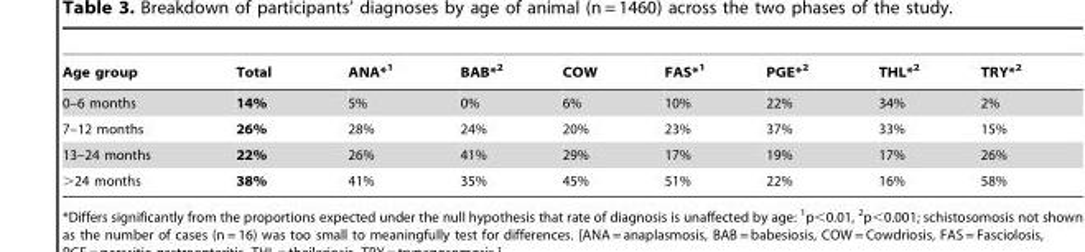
<table><thead><tr><td>Age group</td><td>Total</td><td>ANA*<sup>1</sup></td><td>BAB*<sup>2</sup></td><td>COW</td><td>FAS*<sup>1</sup></td><td>PGE*<sup>2</sup></td><td>THL*<sup>2</sup></td><td>TRY*<sup>2</sup></td></tr></thead><tbody><tr><td>0–6 months</td><td>14%</td><td>5%</td><td>0%</td><td>6%</td><td>10%</td><td>22%</td><td>34%</td><td>2%</td></tr><tr><td>7–12 months</td><td>26%</td><td>28%</td><td>24%</td><td>20%</td><td>23%</td><td>37%</td><td>33%</td><td>15%</td></tr><tr><td>13–24 months</td><td>22%</td><td>26%</td><td>41%</td><td>29%</td><td>17%</td><td>19%</td><td>17%</td><td>26%</td></tr><tr><td>&gt;24 months</td><td>38%</td><td>41%</td><td>35%</td><td>45%</td><td>51%</td><td>22%</td><td>16%</td><td>58%</td></tr></tbody></table>